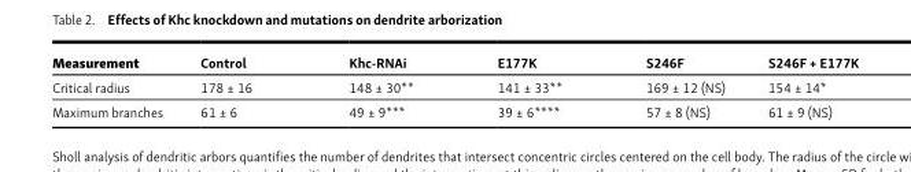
<table><thead><tr><td>Measurement</td><td>Control</td><td>Khc-RNAi</td><td>E177K</td><td>S246F</td><td>S246F + E177K</td></tr></thead><tbody><tr><td>Critical radius</td><td>178 ± 16</td><td>148 ± 30**</td><td>141 ± 33**</td><td>169 ± 12 (NS)</td><td>154 ± 14*</td></tr><tr><td>Maximum branches</td><td>61 ± 6</td><td>49 ± 9***</td><td>39 ± 6****</td><td>57 ± 8 (NS)</td><td>61 ± 9 (NS)</td></tr></tbody></table>